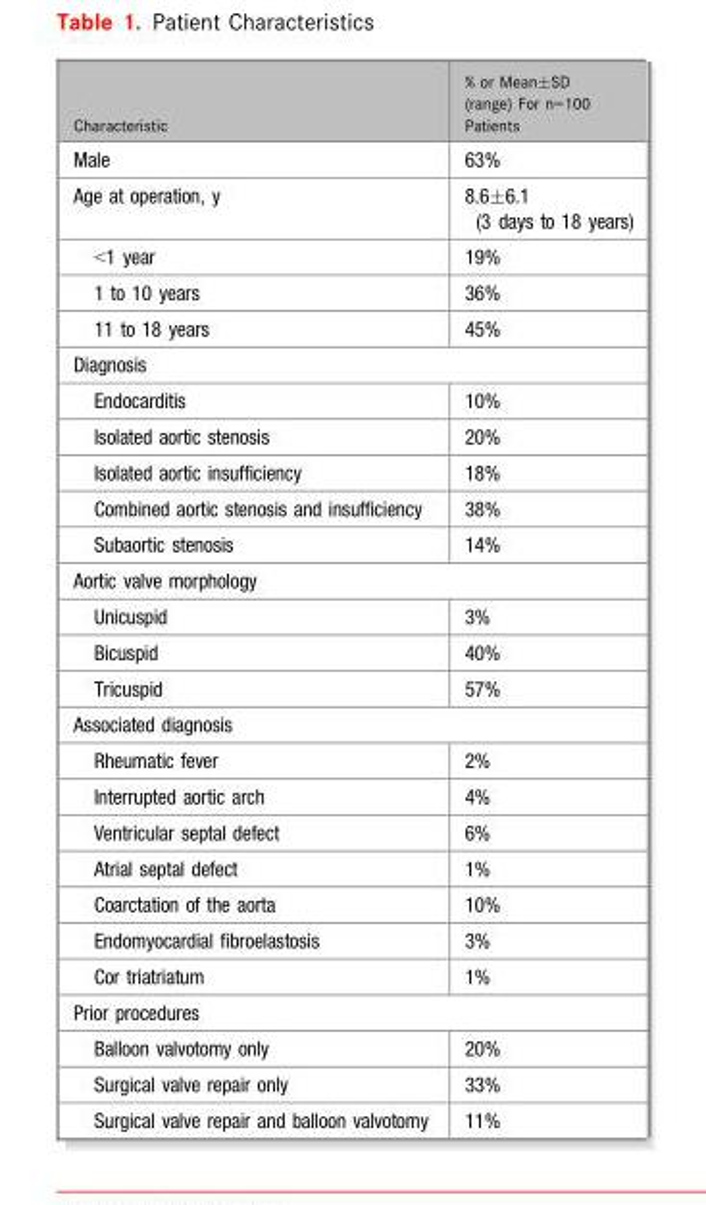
<table><thead><tr><td>Characteristic</td><td>% or Mean±SD (range) For n=100 Patients</td></tr></thead><tbody><tr><td>Male</td><td>63%</td></tr><tr><td>Age at operation, y</td><td>8.6±6.1 (3 days to 18 years)</td></tr><tr><td>&lt;1 year</td><td>19%</td></tr><tr><td>1 to 10 years</td><td>36%</td></tr><tr><td>11 to 18 years</td><td>45%</td></tr><tr><td colspan="2">Diagnosis</td></tr><tr><td>Endocarditis</td><td>10%</td></tr><tr><td>Isolated aortic stenosis</td><td>20%</td></tr><tr><td>Isolated aortic insufficiency</td><td>18%</td></tr><tr><td>Combined aortic stenosis and insufficiency</td><td>38%</td></tr><tr><td>Subaortic stenosis</td><td>14%</td></tr><tr><td colspan="2">Aortic valve morphology</td></tr><tr><td>Unicuspid</td><td>3%</td></tr><tr><td>Bicuspid</td><td>40%</td></tr><tr><td>Tricuspid</td><td>57%</td></tr><tr><td colspan="2">Associated diagnosis</td></tr><tr><td>Rheumatic fever</td><td>2%</td></tr><tr><td>Interrupted aortic arch</td><td>4%</td></tr><tr><td>Ventricular septal defect</td><td>6%</td></tr><tr><td>Atrial septal defect</td><td>1%</td></tr><tr><td>Coarctation of the aorta</td><td>10%</td></tr><tr><td>Endomyocardial fibroelastosis</td><td>3%</td></tr><tr><td>Cor triatriatum</td><td>1%</td></tr><tr><td colspan="2">Prior procedures</td></tr><tr><td>Balloon valvotomy only</td><td>20%</td></tr><tr><td>Surgical valve repair only</td><td>33%</td></tr><tr><td>Surgical valve repair and balloon valvotomy</td><td>11%</td></tr></tbody></table>